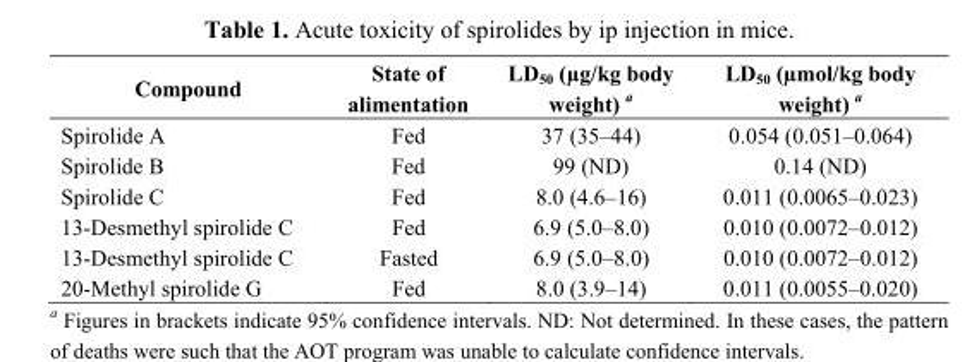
<table><thead><tr><td>Compound</td><td>State of alimentation</td><td>LD<sub>50</sub> (µg/kg body weight) <sup>a</sup></td><td>LD<sub>50</sub> (µmol/kg body weight) <sup>a</sup></td></tr></thead><tbody><tr><td>Spirolide A</td><td>Fed</td><td>37 (35–44)</td><td>0.054 (0.051–0.064)</td></tr><tr><td>Spirolide B</td><td>Fed</td><td>99 (ND)</td><td>0.14 (ND)</td></tr><tr><td>Spirolide C</td><td>Fed</td><td>8.0 (4.6–16)</td><td>0.011 (0.0065–0.023)</td></tr><tr><td>13-Desmethyl spirolide C</td><td>Fed</td><td>6.9 (5.0–8.0)</td><td>0.010 (0.0072–0.012)</td></tr><tr><td>13-Desmethyl spirolide C</td><td>Fasted</td><td>6.9 (5.0–8.0)</td><td>0.010 (0.0072–0.012)</td></tr><tr><td>20-Methyl spirolide G</td><td>Fed</td><td>8.0 (3.9–14)</td><td>0.011 (0.0055–0.020)</td></tr></tbody></table>